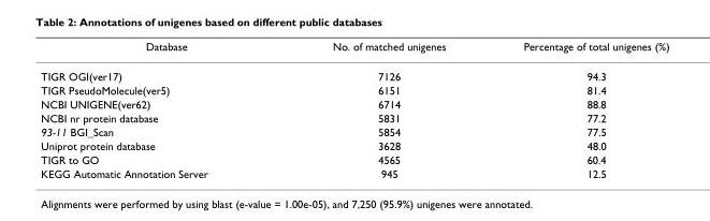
<table><thead><tr><td>Database</td><td>No. of matched unigenes</td><td>Percentage of total unigenes (%)</td></tr></thead><tbody><tr><td>TIGR OGI(ver17)</td><td>7126</td><td>94.3</td></tr><tr><td>TIGR PseudoMolecule(ver5)</td><td>6151</td><td>81.4</td></tr><tr><td>NCBI UNIGENE(ver62)</td><td>6714</td><td>88.8</td></tr><tr><td>NCBI nr protein database</td><td>5831</td><td>77.2</td></tr><tr><td>93-11 BGI_Scan</td><td>5854</td><td>77.5</td></tr><tr><td>Uniprot protein database</td><td>3628</td><td>48.0</td></tr><tr><td>TIGR to GO</td><td>4565</td><td>60.4</td></tr><tr><td>KEGG Automatic Annotation Server</td><td>945</td><td>12.5</td></tr></tbody></table>